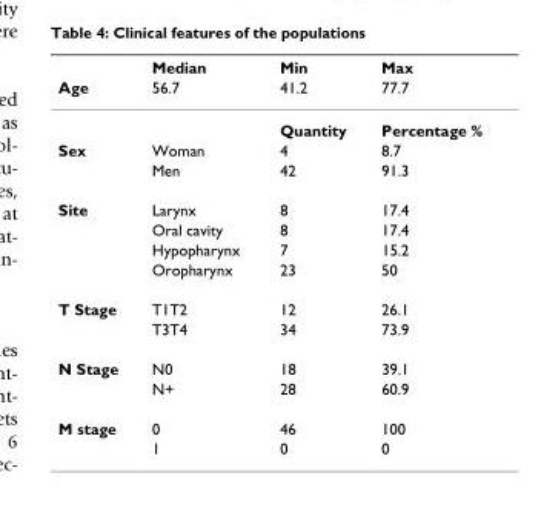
<table><thead><tr><td rowspan="2">Age</td><td rowspan="2">Median 56.7</td><td rowspan="2">Min 41.2</td><td rowspan="2">Max 77.7</td></tr><tr></tr></thead><tbody><tr><td></td><td></td><td>Quantity</td><td>Percentage %</td></tr><tr><td rowspan="2">Sex</td><td>Woman</td><td>4</td><td>8.7</td></tr><tr><td>Men</td><td>42</td><td>91.3</td></tr><tr><td rowspan="4">Site</td><td>Larynx</td><td>8</td><td>17.4</td></tr><tr><td>Oral cavity</td><td>8</td><td>17.4</td></tr><tr><td>Hypopharynx</td><td>7</td><td>15.2</td></tr><tr><td>Oropharynx</td><td>23</td><td>50</td></tr><tr><td rowspan="2">T Stage</td><td>T1T2</td><td>12</td><td>26.1</td></tr><tr><td>T3T4</td><td>34</td><td>73.9</td></tr><tr><td rowspan="2">N Stage</td><td>N0</td><td>18</td><td>39.1</td></tr><tr><td>N+</td><td>28</td><td>60.9</td></tr><tr><td rowspan="2">M stage</td><td>0</td><td>46</td><td>100</td></tr><tr><td>1</td><td>0</td><td>0</td></tr></tbody></table>